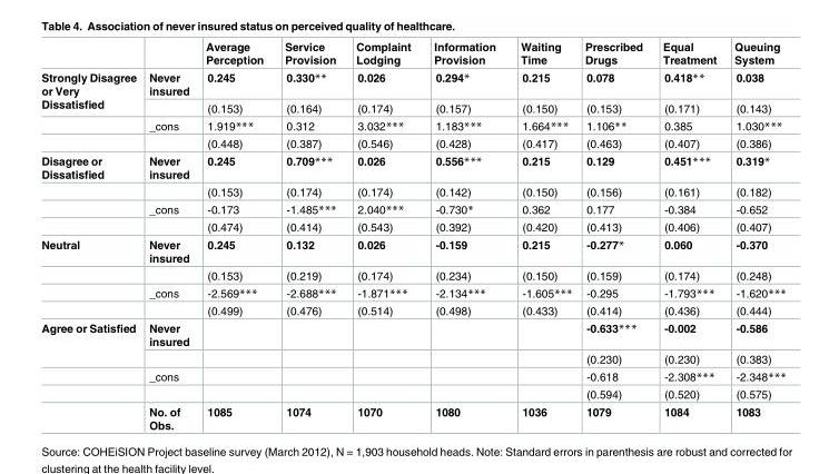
<table><thead><tr><td></td><td></td><td>Average Perception</td><td>Service Provision</td><td>Complaint Lodging</td><td>Information Provision</td><td>Waiting Time</td><td>Prescribed Drugs</td><td>Equal Treatment</td><td>Queuing System</td></tr></thead><tbody><tr><td rowspan="4">Strongly Disagree or Very Dissatisfied</td><td>Never insured</td><td>0.245</td><td>0.330**</td><td>0.026</td><td>0.294*</td><td>0.215</td><td>0.078</td><td>0.418**</td><td>0.038</td></tr><tr><td></td><td>(0.153)</td><td>(0.164)</td><td>(0.174)</td><td>(0.157)</td><td>(0.150)</td><td>(0.153)</td><td>(0.171)</td><td>(0.143)</td></tr><tr><td>_cons</td><td>1.919***</td><td>0.312</td><td>3.032***</td><td>1.183***</td><td>1.664***</td><td>1.106**</td><td>0.385</td><td>1.030***</td></tr><tr><td></td><td>(0.448)</td><td>(0.387)</td><td>(0.546)</td><td>(0.428)</td><td>(0.417)</td><td>(0.463)</td><td>(0.407)</td><td>(0.386)</td></tr><tr><td rowspan="4">Disagree or Dissatisfied</td><td>Never insured</td><td>0.245</td><td>0.709***</td><td>0.026</td><td>0.556***</td><td>0.215</td><td>0.129</td><td>0.451***</td><td>0.319*</td></tr><tr><td></td><td>(0.153)</td><td>(0.174)</td><td>(0.174)</td><td>(0.142)</td><td>(0.150)</td><td>(0.156)</td><td>(0.161)</td><td>(0.182)</td></tr><tr><td>_cons</td><td>-0.173</td><td>-1.485***</td><td>2.040***</td><td>-0.730*</td><td>0.362</td><td>0.177</td><td>-0.384</td><td>-0.652</td></tr><tr><td></td><td>(0.474)</td><td>(0.414)</td><td>(0.543)</td><td>(0.392)</td><td>(0.420)</td><td>(0.413)</td><td>(0.406)</td><td>(0.407)</td></tr><tr><td rowspan="4">Neutral</td><td>Never insured</td><td>0.245</td><td>0.132</td><td>0.026</td><td>-0.159</td><td>0.215</td><td>-0.277*</td><td>0.060</td><td>-0.370</td></tr><tr><td></td><td>(0.153)</td><td>(0.219)</td><td>(0.174)</td><td>(0.234)</td><td>(0.150)</td><td>(0.159)</td><td>(0.174)</td><td>(0.248)</td></tr><tr><td>_cons</td><td>-2.569***</td><td>-2.688***</td><td>-1.871***</td><td>-2.134***</td><td>-1.605***</td><td>-0.295</td><td>-1.793***</td><td>-1.620***</td></tr><tr><td></td><td>(0.499)</td><td>(0.476)</td><td>(0.514)</td><td>(0.498)</td><td>(0.433)</td><td>(0.414)</td><td>(0.436)</td><td>(0.444)</td></tr><tr><td rowspan="5">Agree or Satisfied</td><td>Never insured</td><td></td><td></td><td></td><td></td><td></td><td>-0.633***</td><td>-0.002</td><td>-0.586</td></tr><tr><td></td><td></td><td></td><td></td><td></td><td></td><td>(0.230)</td><td>(0.230)</td><td>(0.383)</td></tr><tr><td>_cons</td><td></td><td></td><td></td><td></td><td></td><td>-0.618</td><td>-2.308***</td><td>-2.348***</td></tr><tr><td></td><td></td><td></td><td></td><td></td><td></td><td>(0.594)</td><td>(0.520)</td><td>(0.575)</td></tr><tr><td>No. of Obs.</td><td>1085</td><td>1074</td><td>1070</td><td>1080</td><td>1036</td><td>1079</td><td>1084</td><td>1083</td></tr></tbody></table>